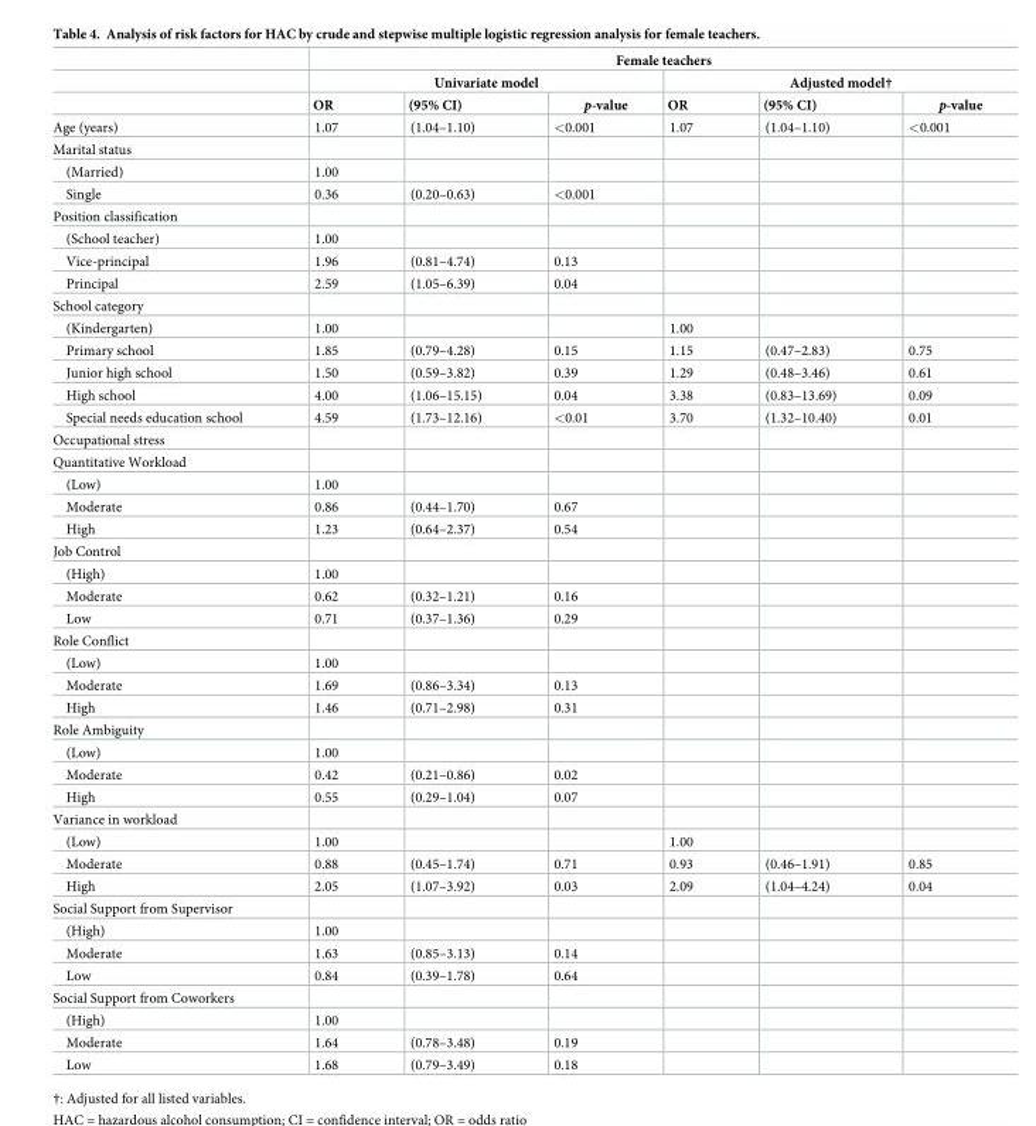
<table><thead><tr><td rowspan="3"></td><td colspan="6">Female teachers</td></tr><tr><td colspan="3">Univariate model</td><td colspan="3">Adjusted model†</td></tr><tr><td>OR</td><td>(95% CI)</td><td>p-value</td><td>OR</td><td>(95% CI)</td><td>p-value</td></tr></thead><tbody><tr><td>Age (years)</td><td>1.07</td><td>(1.04–1.10)</td><td>&lt;0.001</td><td>1.07</td><td>(1.04–1.10)</td><td>&lt;0.001</td></tr><tr><td colspan="7">Marital status</td></tr><tr><td>(Married)</td><td>1.00</td><td></td><td></td><td></td><td></td><td></td></tr><tr><td>Single</td><td>0.36</td><td>(0.20–0.63)</td><td>&lt;0.001</td><td></td><td></td><td></td></tr><tr><td colspan="7">Position classification</td></tr><tr><td>(School teacher)</td><td>1.00</td><td></td><td></td><td></td><td></td><td></td></tr><tr><td>Vice-principal</td><td>1.96</td><td>(0.81–4.74)</td><td>0.13</td><td></td><td></td><td></td></tr><tr><td>Principal</td><td>2.59</td><td>(1.05–6.39)</td><td>0.04</td><td></td><td></td><td></td></tr><tr><td colspan="7">School category</td></tr><tr><td>(Kindergarten)</td><td>1.00</td><td></td><td></td><td>1.00</td><td></td><td></td></tr><tr><td>Primary school</td><td>1.85</td><td>(0.79–4.28)</td><td>0.15</td><td>1.15</td><td>(0.47–2.83)</td><td>0.75</td></tr><tr><td>Junior high school</td><td>1.50</td><td>(0.59–3.82)</td><td>0.39</td><td>1.29</td><td>(0.48–3.46)</td><td>0.61</td></tr><tr><td>High school</td><td>4.00</td><td>(1.06–15.15)</td><td>0.04</td><td>3.38</td><td>(0.83–13.69)</td><td>0.09</td></tr><tr><td>Special needs education school</td><td>4.59</td><td>(1.73–12.16)</td><td>&lt;0.01</td><td>3.70</td><td>(1.32–10.40)</td><td>0.01</td></tr><tr><td colspan="7">Occupational stress</td></tr><tr><td colspan="7">Quantitative Workload</td></tr><tr><td>(Low)</td><td>1.00</td><td></td><td></td><td></td><td></td><td></td></tr><tr><td>Moderate</td><td>0.86</td><td>(0.44–1.70)</td><td>0.67</td><td></td><td></td><td></td></tr><tr><td>High</td><td>1.23</td><td>(0.64–2.37)</td><td>0.54</td><td></td><td></td><td></td></tr><tr><td colspan="7">Job Control</td></tr><tr><td>(High)</td><td>1.00</td><td></td><td></td><td></td><td></td><td></td></tr><tr><td>Moderate</td><td>0.62</td><td>(0.32–1.21)</td><td>0.16</td><td></td><td></td><td></td></tr><tr><td>Low</td><td>0.71</td><td>(0.37–1.36)</td><td>0.29</td><td></td><td></td><td></td></tr><tr><td colspan="7">Role Conflict</td></tr><tr><td>(Low)</td><td>1.00</td><td></td><td></td><td></td><td></td><td></td></tr><tr><td>Moderate</td><td>1.69</td><td>(0.86–3.34)</td><td>0.13</td><td></td><td></td><td></td></tr><tr><td>High</td><td>1.46</td><td>(0.71–2.98)</td><td>0.31</td><td></td><td></td><td></td></tr><tr><td colspan="7">Role Ambiguity</td></tr><tr><td>(Low)</td><td>1.00</td><td></td><td></td><td></td><td></td><td></td></tr><tr><td>Moderate</td><td>0.42</td><td>(0.21–0.86)</td><td>0.02</td><td></td><td></td><td></td></tr><tr><td>High</td><td>0.55</td><td>(0.29–1.04)</td><td>0.07</td><td></td><td></td><td></td></tr><tr><td colspan="7">Variance in workload</td></tr><tr><td>(Low)</td><td>1.00</td><td></td><td></td><td>1.00</td><td></td><td></td></tr><tr><td>Moderate</td><td>0.88</td><td>(0.45–1.74)</td><td>0.71</td><td>0.93</td><td>(0.46–1.91)</td><td>0.85</td></tr><tr><td>High</td><td>2.05</td><td>(1.07–3.92)</td><td>0.03</td><td>2.09</td><td>(1.04–4.24)</td><td>0.04</td></tr><tr><td colspan="7">Social Support from Supervisor</td></tr><tr><td>(High)</td><td>1.00</td><td></td><td></td><td></td><td></td><td></td></tr><tr><td>Moderate</td><td>1.63</td><td>(0.85–3.13)</td><td>0.14</td><td></td><td></td><td></td></tr><tr><td>Low</td><td>0.84</td><td>(0.39–1.78)</td><td>0.64</td><td></td><td></td><td></td></tr><tr><td colspan="7">Social Support from Coworkers</td></tr><tr><td>(High)</td><td>1.00</td><td></td><td></td><td></td><td></td><td></td></tr><tr><td>Moderate</td><td>1.64</td><td>(0.78–3.48)</td><td>0.19</td><td></td><td></td><td></td></tr><tr><td>Low</td><td>1.68</td><td>(0.79–3.49)</td><td>0.18</td><td></td><td></td><td></td></tr></tbody></table>